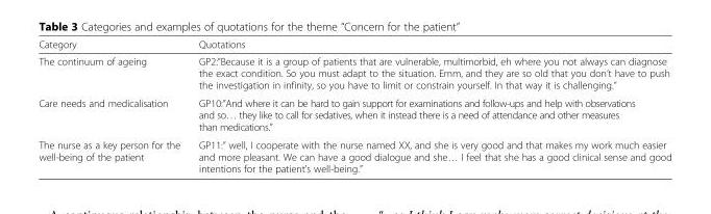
<table><thead><tr><td>Category</td><td>Quotations</td></tr></thead><tbody><tr><td>The continuum of ageing</td><td>GP2:”Because it is a group of patients that are vulnerable, multimorbid, eh where you not always can diagnose the exact condition. So you must adapt to the situation. Emm, and they are so old that you don’t have to push the investigation in infinity, so you have to limit or constrain yourself. In that way it is challenging.”</td></tr><tr><td>Care needs and medicalisation</td><td>GP10:”And where it can be hard to gain support for examinations and follow-ups and help with observations and so… they like to call for sedatives, when it instead there is a need of attendance and other measures than medications.”</td></tr><tr><td>The nurse as a key person for the well-being of the patient</td><td>GP11:” well, I cooperate with the nurse named XX, and she is very good and that makes my work much easier and more pleasant. We can have a good dialogue and she… I feel that she has a good clinical sense and good intentions for the patient’s well-being.”</td></tr></tbody></table>